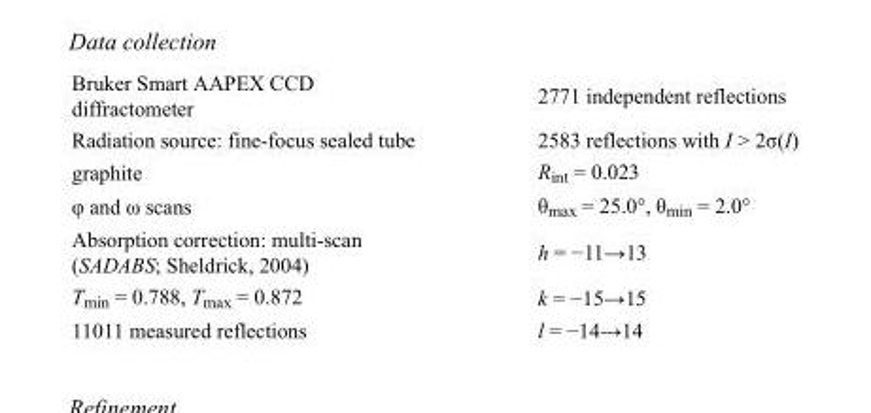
<table><tbody><tr><td>Bruker Smart AAPEX CCD diffractometer</td><td>2771 independent reflections</td></tr><tr><td>Radiation source: fine-focus sealed tube</td><td>2583 reflections with I &gt; 2σ(I)</td></tr><tr><td>graphite</td><td>R<sub>int</sub> = 0.023</td></tr><tr><td>φ and ω scans</td><td>θ<sub>max</sub> = 25.0°, θ<sub>min</sub> = 2.0°</td></tr><tr><td>Absorption correction: multi-scan (SADABS; Sheldrick, 2004)</td><td>h = −11→13</td></tr><tr><td>T<sub>min</sub> = 0.788, T<sub>max</sub> = 0.872</td><td>k = −15→15</td></tr><tr><td>11011 measured reflections</td><td>l = −14→14</td></tr></tbody></table>